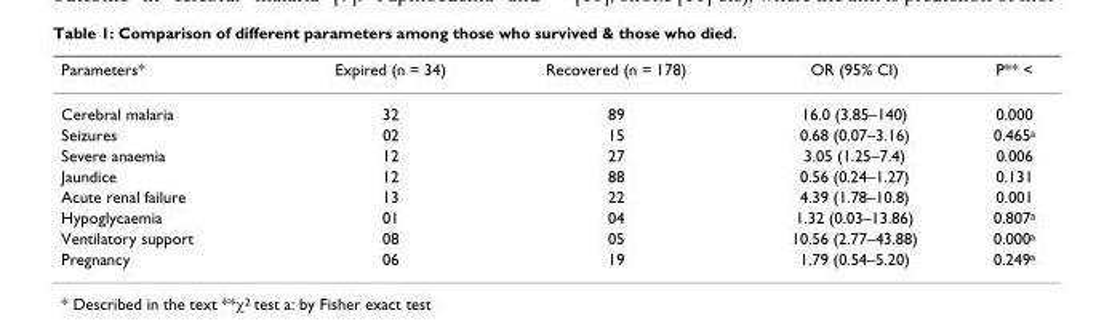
<table><thead><tr><td>Parameters*</td><td>Expired (n = 34)</td><td>Recovered (n = 178)</td><td>OR (95% CI)</td><td>P** &lt;</td></tr></thead><tbody><tr><td>Cerebral malaria</td><td>32</td><td>89</td><td>16.0 (3.85–140)</td><td>0.000</td></tr><tr><td>Seizures</td><td>02</td><td>15</td><td>0.68 (0.07–3.16)</td><td>0.465<sup>a</sup></td></tr><tr><td>Severe anaemia</td><td>12</td><td>27</td><td>3.05 (1.25–7.4)</td><td>0.006</td></tr><tr><td>Jaundice</td><td>12</td><td>88</td><td>0.56 (0.24–1.27)</td><td>0.131</td></tr><tr><td>Acute renal failure</td><td>13</td><td>22</td><td>4.39 (1.78–10.8)</td><td>0.001</td></tr><tr><td>Hypoglycaemia</td><td>01</td><td>04</td><td>1.32 (0.03–13.86)</td><td>0.807<sup>a</sup></td></tr><tr><td>Ventilatory support</td><td>08</td><td>05</td><td>10.56 (2.77–43.88)</td><td>0.000<sup>a</sup></td></tr><tr><td>Pregnancy</td><td>06</td><td>19</td><td>1.79 (0.54–5.20)</td><td>0.249<sup>a</sup></td></tr></tbody></table>